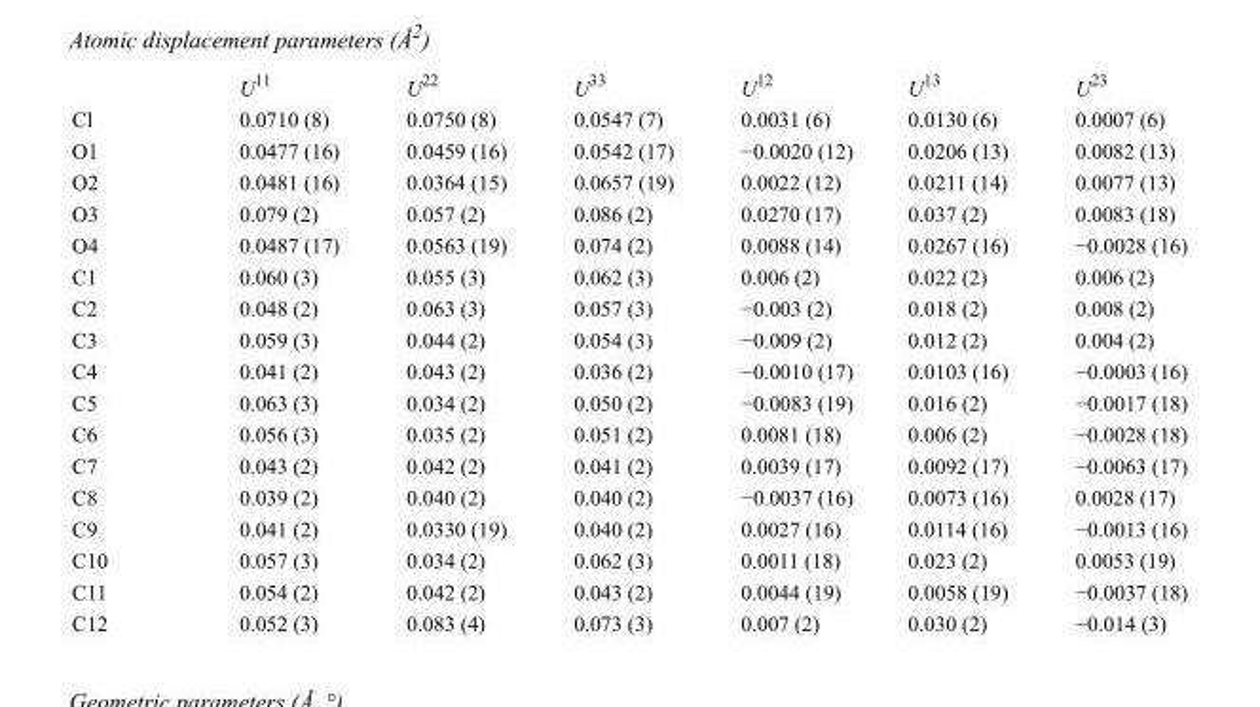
<table><thead><tr><td></td><td>U<sup>11</sup></td><td>U<sup>22</sup></td><td>U<sup>33</sup></td><td>U<sup>12</sup></td><td>U<sup>13</sup></td><td>U<sup>23</sup></td></tr></thead><tbody><tr><td>Cl</td><td>0.0710 (8)</td><td>0.0750 (8)</td><td>0.0547 (7)</td><td>0.0031 (6)</td><td>0.0130 (6)</td><td>0.0007 (6)</td></tr><tr><td>O1</td><td>0.0477 (16)</td><td>0.0459 (16)</td><td>0.0542 (17)</td><td>−0.0020 (12)</td><td>0.0206 (13)</td><td>0.0082 (13)</td></tr><tr><td>O2</td><td>0.0481 (16)</td><td>0.0364 (15)</td><td>0.0657 (19)</td><td>0.0022 (12)</td><td>0.0211 (14)</td><td>0.0077 (13)</td></tr><tr><td>O3</td><td>0.079 (2)</td><td>0.057 (2)</td><td>0.086 (2)</td><td>0.0270 (17)</td><td>0.037 (2)</td><td>0.0083 (18)</td></tr><tr><td>O4</td><td>0.0487 (17)</td><td>0.0563 (19)</td><td>0.074 (2)</td><td>0.0088 (14)</td><td>0.0267 (16)</td><td>−0.0028 (16)</td></tr><tr><td>C1</td><td>0.060 (3)</td><td>0.055 (3)</td><td>0.062 (3)</td><td>0.006 (2)</td><td>0.022 (2)</td><td>0.006 (2)</td></tr><tr><td>C2</td><td>0.048 (2)</td><td>0.063 (3)</td><td>0.057 (3)</td><td>−0.003 (2)</td><td>0.018 (2)</td><td>0.008 (2)</td></tr><tr><td>C3</td><td>0.059 (3)</td><td>0.044 (2)</td><td>0.054 (3)</td><td>−0.009 (2)</td><td>0.012 (2)</td><td>0.004 (2)</td></tr><tr><td>C4</td><td>0.041 (2)</td><td>0.043 (2)</td><td>0.036 (2)</td><td>−0.0010 (17)</td><td>0.0103 (16)</td><td>−0.0003 (16)</td></tr><tr><td>C5</td><td>0.063 (3)</td><td>0.034 (2)</td><td>0.050 (2)</td><td>−0.0083 (19)</td><td>0.016 (2)</td><td>−0.0017 (18)</td></tr><tr><td>C6</td><td>0.056 (3)</td><td>0.035 (2)</td><td>0.051 (2)</td><td>0.0081 (18)</td><td>0.006 (2)</td><td>−0.0028 (18)</td></tr><tr><td>C7</td><td>0.043 (2)</td><td>0.042 (2)</td><td>0.041 (2)</td><td>0.0039 (17)</td><td>0.0092 (17)</td><td>−0.0063 (17)</td></tr><tr><td>C8</td><td>0.039 (2)</td><td>0.040 (2)</td><td>0.040 (2)</td><td>−0.0037 (16)</td><td>0.0073 (16)</td><td>0.0028 (17)</td></tr><tr><td>C9</td><td>0.041 (2)</td><td>0.0330 (19)</td><td>0.040 (2)</td><td>0.0027 (16)</td><td>0.0114 (16)</td><td>−0.0013 (16)</td></tr><tr><td>C10</td><td>0.057 (3)</td><td>0.034 (2)</td><td>0.062 (3)</td><td>0.0011 (18)</td><td>0.023 (2)</td><td>0.0053 (19)</td></tr><tr><td>C11</td><td>0.054 (2)</td><td>0.042 (2)</td><td>0.043 (2)</td><td>0.0044 (19)</td><td>0.0058 (19)</td><td>−0.0037 (18)</td></tr><tr><td>C12</td><td>0.052 (3)</td><td>0.083 (4)</td><td>0.073 (3)</td><td>0.007 (2)</td><td>0.030 (2)</td><td>−0.014 (3)</td></tr></tbody></table>